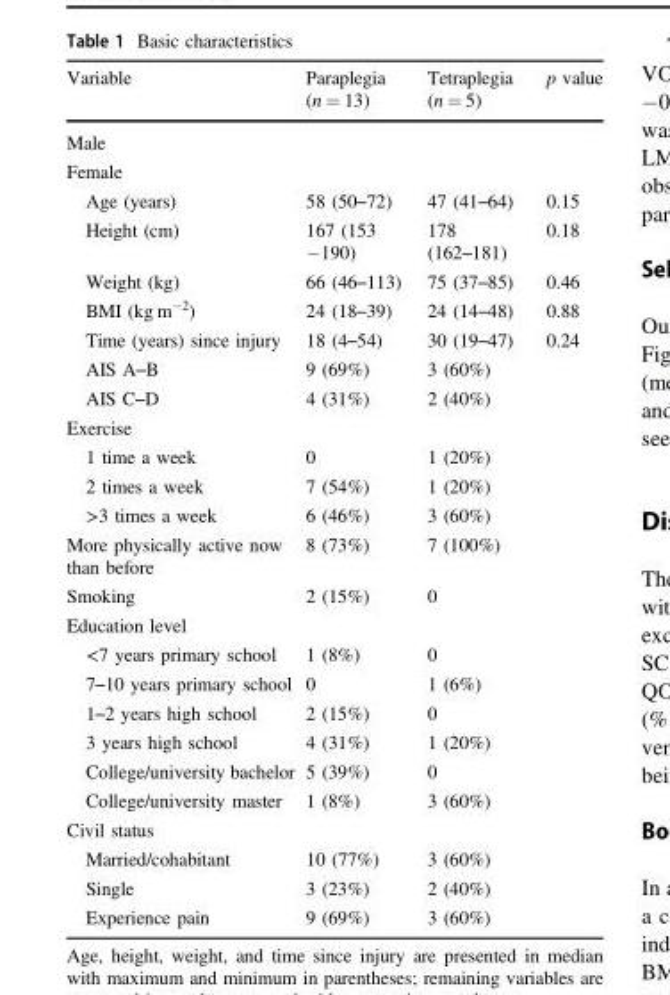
<table><thead><tr><td>Variable</td><td>Paraplegia (n = 13)</td><td>Tetraplegia (n = 5)</td><td>p value</td></tr></thead><tbody><tr><td colspan="4">Male</td></tr><tr><td colspan="4">Female</td></tr><tr><td>Age (years)</td><td>58 (50–72)</td><td>47 (41–64)</td><td>0.15</td></tr><tr><td>Height (cm)</td><td>167 (153 −190)</td><td>178 (162–181)</td><td>0.18</td></tr><tr><td>Weight (kg)</td><td>66 (46–113)</td><td>75 (37–85)</td><td>0.46</td></tr><tr><td>BMI (kg m<sup>−2</sup>)</td><td>24 (18–39)</td><td>24 (14–48)</td><td>0.88</td></tr><tr><td>Time (years) since injury</td><td>18 (4–54)</td><td>30 (19–47)</td><td>0.24</td></tr><tr><td>AIS A–B</td><td>9 (69%)</td><td>3 (60%)</td><td></td></tr><tr><td>AIS C–D</td><td>4 (31%)</td><td>2 (40%)</td><td></td></tr><tr><td colspan="4">Exercise</td></tr><tr><td>1 time a week</td><td>0</td><td>1 (20%)</td><td></td></tr><tr><td>2 times a week</td><td>7 (54%)</td><td>1 (20%)</td><td></td></tr><tr><td>&gt;3 times a week</td><td>6 (46%)</td><td>3 (60%)</td><td></td></tr><tr><td>More physically active now than before</td><td>8 (73%)</td><td>7 (100%)</td><td></td></tr><tr><td>Smoking</td><td>2 (15%)</td><td>0</td><td></td></tr><tr><td colspan="4">Education level</td></tr><tr><td>&lt;7 years primary school</td><td>1 (8%)</td><td>0</td><td></td></tr><tr><td>7–10 years primary school</td><td>0</td><td>1 (6%)</td><td></td></tr><tr><td>1–2 years high school</td><td>2 (15%)</td><td>0</td><td></td></tr><tr><td>3 years high school</td><td>4 (31%)</td><td>1 (20%)</td><td></td></tr><tr><td>College/university bachelor</td><td>5 (39%)</td><td>0</td><td></td></tr><tr><td>College/university master</td><td>1 (8%)</td><td>3 (60%)</td><td></td></tr><tr><td colspan="4">Civil status</td></tr><tr><td>Married/cohabitant</td><td>10 (77%)</td><td>3 (60%)</td><td></td></tr><tr><td>Single</td><td>3 (23%)</td><td>2 (40%)</td><td></td></tr><tr><td>Experience pain</td><td>9 (69%)</td><td>3 (60%)</td><td></td></tr></tbody></table>